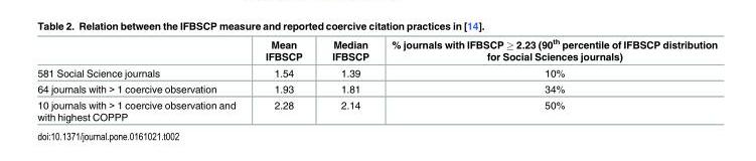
<table><thead><tr><td></td><td>Mean IFBSCP</td><td>Median IFBSCP</td><td>% journals with IFBSCP ≥ 2.23 (90<sup>th</sup> percentile of IFBSCP distribution for Social Sciences journals)</td></tr></thead><tbody><tr><td>581 Social Science journals</td><td>1.54</td><td>1.39</td><td>10%</td></tr><tr><td>64 journals with &gt; 1 coercive observation</td><td>1.93</td><td>1.81</td><td>34%</td></tr><tr><td>10 journals with &gt; 1 coercive observation and with highest COPPP</td><td>2.28</td><td>2.14</td><td>50%</td></tr></tbody></table>